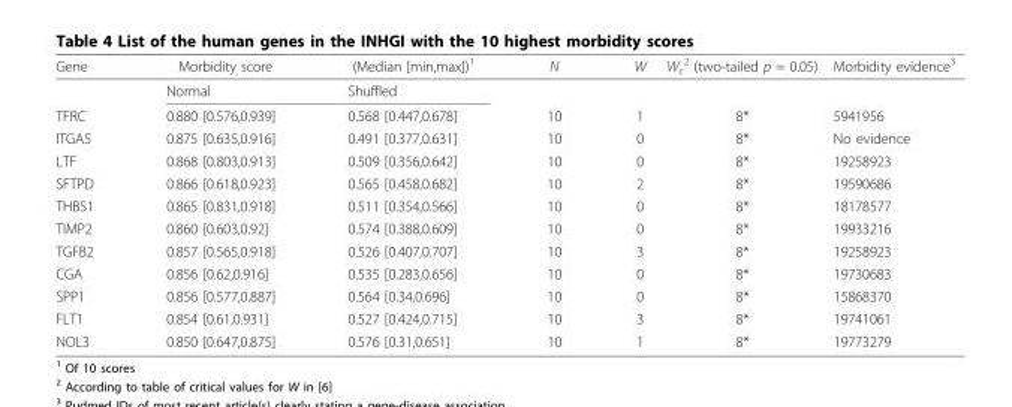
<table><thead><tr><td>Gene</td><td>Morbidity score</td><td>(Median [min,max])<sup>1</sup></td><td>N</td><td>W</td><td>W<sub>c</sub> <sup>2</sup> (two-tailed p = 0.05)</td><td>Morbidity evidence<sup>3</sup></td></tr></thead><tbody><tr><td></td><td>Normal</td><td>Shuffled</td><td></td><td colspan="3"></td></tr><tr><td>TFRC</td><td>0.880 [0.576,0.939]</td><td>0.568 [0.447,0.678]</td><td>10</td><td>1</td><td>8*</td><td>5941956</td></tr><tr><td>ITGA5</td><td>0.875 [0.635,0.916]</td><td>0.491 [0.377,0.631]</td><td>10</td><td>0</td><td>8*</td><td>No evidence</td></tr><tr><td>LTF</td><td>0.868 [0.803,0.913]</td><td>0.509 [0.356,0.642]</td><td>10</td><td>0</td><td>8*</td><td>19258923</td></tr><tr><td>SFTPD</td><td>0.866 [0.618,0.923]</td><td>0.565 [0.458,0.682]</td><td>10</td><td>2</td><td>8*</td><td>19590686</td></tr><tr><td>THBS1</td><td>0.865 [0.831,0.918]</td><td>0.511 [0.354,0.566]</td><td>10</td><td>0</td><td>8*</td><td>18178577</td></tr><tr><td>TIMP2</td><td>0.860 [0.603,0.92]</td><td>0.574 [0.388,0.609]</td><td>10</td><td>0</td><td>8*</td><td>19933216</td></tr><tr><td>TGFB2</td><td>0.857 [0.565,0.918]</td><td>0.526 [0.407,0.707]</td><td>10</td><td>3</td><td>8*</td><td>19258923</td></tr><tr><td>CGA</td><td>0.856 [0.62,0.916]</td><td>0.535 [0.283,0.656]</td><td>10</td><td>0</td><td>8*</td><td>19730683</td></tr><tr><td>SPP1</td><td>0.856 [0.577,0.887]</td><td>0.564 [0.34,0.696]</td><td>10</td><td>0</td><td>8*</td><td>15868370</td></tr><tr><td>FLT1</td><td>0.854 [0.61,0.931]</td><td>0.527 [0.424,0.715]</td><td>10</td><td>3</td><td>8*</td><td>19741061</td></tr><tr><td>NOL3</td><td>0.850 [0.647,0.875]</td><td>0.576 [0.31,0.651]</td><td>10</td><td>1</td><td>8*</td><td>19773279</td></tr></tbody></table>